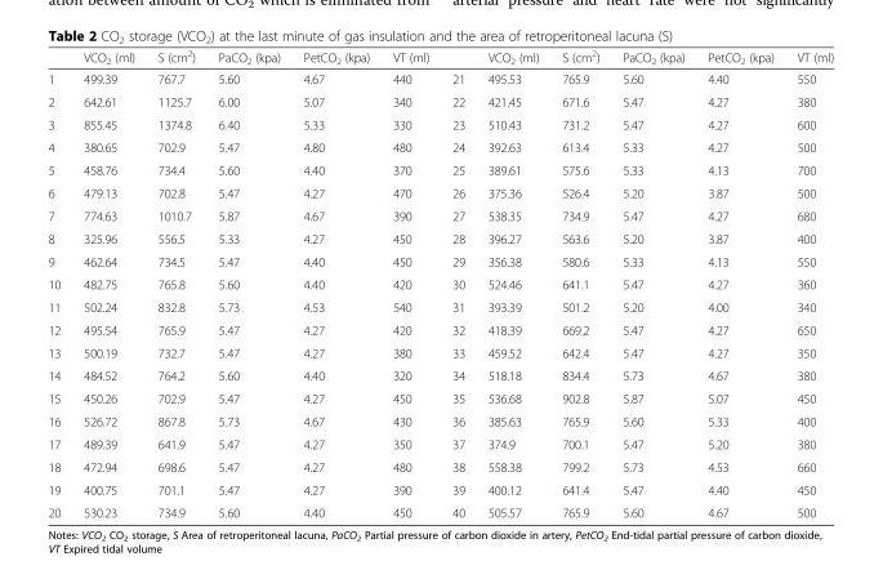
<table><thead><tr><td></td><td>VCO<sub>2</sub> (ml)</td><td>S (cm<sup>2</sup>)</td><td>PaCO<sub>2</sub> (kpa)</td><td>PetCO<sub>2</sub> (kpa)</td><td>VT (ml)</td><td></td><td>VCO<sub>2</sub> (ml)</td><td>S (cm<sup>2</sup>)</td><td>PaCO<sub>2</sub> (kpa)</td><td>PetCO<sub>2</sub> (kpa)</td><td>VT (ml)</td></tr></thead><tbody><tr><td>1</td><td>499.39</td><td>767.7</td><td>5.60</td><td>4.67</td><td>440</td><td>21</td><td>495.53</td><td>765.9</td><td>5.60</td><td>4.40</td><td>550</td></tr><tr><td>2</td><td>642.61</td><td>1125.7</td><td>6.00</td><td>5.07</td><td>340</td><td>22</td><td>421.45</td><td>671.6</td><td>5.47</td><td>4.27</td><td>380</td></tr><tr><td>3</td><td>855.45</td><td>1374.8</td><td>6.40</td><td>5.33</td><td>330</td><td>23</td><td>510.43</td><td>731.2</td><td>5.47</td><td>4.27</td><td>600</td></tr><tr><td>4</td><td>380.65</td><td>702.9</td><td>5.47</td><td>4.80</td><td>480</td><td>24</td><td>392.63</td><td>613.4</td><td>5.33</td><td>4.27</td><td>500</td></tr><tr><td>5</td><td>458.76</td><td>734.4</td><td>5.60</td><td>4.40</td><td>370</td><td>25</td><td>389.61</td><td>575.6</td><td>5.33</td><td>4.13</td><td>700</td></tr><tr><td>6</td><td>479.13</td><td>702.8</td><td>5.47</td><td>4.27</td><td>470</td><td>26</td><td>375.36</td><td>526.4</td><td>5.20</td><td>3.87</td><td>500</td></tr><tr><td>7</td><td>774.63</td><td>1010.7</td><td>5.87</td><td>4.67</td><td>390</td><td>27</td><td>538.35</td><td>734.9</td><td>5.47</td><td>4.27</td><td>680</td></tr><tr><td>8</td><td>325.96</td><td>556.5</td><td>5.33</td><td>4.27</td><td>450</td><td>28</td><td>396.27</td><td>563.6</td><td>5.20</td><td>3.87</td><td>400</td></tr><tr><td>9</td><td>462.64</td><td>734.5</td><td>5.47</td><td>4.40</td><td>450</td><td>29</td><td>356.38</td><td>580.6</td><td>5.33</td><td>4.13</td><td>550</td></tr><tr><td>10</td><td>482.75</td><td>765.8</td><td>5.60</td><td>4.40</td><td>420</td><td>30</td><td>524.46</td><td>641.1</td><td>5.47</td><td>4.27</td><td>360</td></tr><tr><td>11</td><td>502.24</td><td>832.8</td><td>5.73</td><td>4.53</td><td>540</td><td>31</td><td>393.39</td><td>501.2</td><td>5.20</td><td>4.00</td><td>340</td></tr><tr><td>12</td><td>495.54</td><td>765.9</td><td>5.47</td><td>4.27</td><td>420</td><td>32</td><td>418.39</td><td>669.2</td><td>5.47</td><td>4.27</td><td>650</td></tr><tr><td>13</td><td>500.19</td><td>732.7</td><td>5.47</td><td>4.27</td><td>380</td><td>33</td><td>459.52</td><td>642.4</td><td>5.47</td><td>4.27</td><td>350</td></tr><tr><td>14</td><td>484.52</td><td>764.2</td><td>5.60</td><td>4.40</td><td>320</td><td>34</td><td>518.18</td><td>834.4</td><td>5.73</td><td>4.67</td><td>380</td></tr><tr><td>15</td><td>450.26</td><td>702.9</td><td>5.47</td><td>4.27</td><td>450</td><td>35</td><td>536.68</td><td>902.8</td><td>5.87</td><td>5.07</td><td>450</td></tr><tr><td>16</td><td>526.72</td><td>867.8</td><td>5.73</td><td>4.67</td><td>430</td><td>36</td><td>385.63</td><td>765.9</td><td>5.60</td><td>5.33</td><td>400</td></tr><tr><td>17</td><td>489.39</td><td>641.9</td><td>5.47</td><td>4.27</td><td>350</td><td>37</td><td>374.9</td><td>700.1</td><td>5.47</td><td>5.20</td><td>380</td></tr><tr><td>18</td><td>472.94</td><td>698.6</td><td>5.47</td><td>4.27</td><td>480</td><td>38</td><td>558.38</td><td>799.2</td><td>5.73</td><td>4.53</td><td>660</td></tr><tr><td>19</td><td>400.75</td><td>701.1</td><td>5.47</td><td>4.27</td><td>390</td><td>39</td><td>400.12</td><td>641.4</td><td>5.47</td><td>4.40</td><td>450</td></tr><tr><td>20</td><td>530.23</td><td>734.9</td><td>5.60</td><td>4.40</td><td>450</td><td>40</td><td>505.57</td><td>765.9</td><td>5.60</td><td>4.67</td><td>500</td></tr></tbody></table>